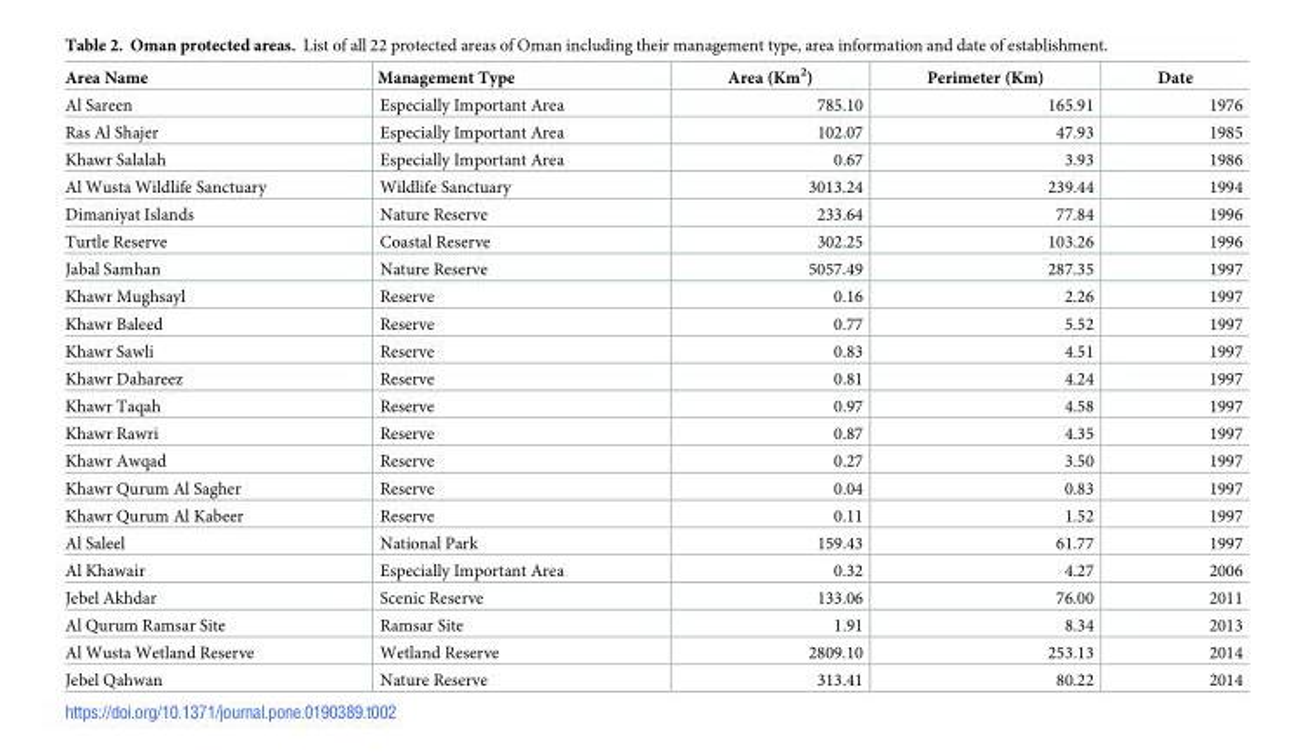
<table><thead><tr><td>Area Name</td><td>Management Type</td><td>Area (Km<sup>2</sup>)</td><td>Perimeter (Km)</td><td>Date</td></tr></thead><tbody><tr><td>Al Sareen</td><td>Especially Important Area</td><td>785.10</td><td>165.91</td><td>1976</td></tr><tr><td>Ras Al Shajer</td><td>Especially Important Area</td><td>102.07</td><td>47.93</td><td>1985</td></tr><tr><td>Khawr Salalah</td><td>Especially Important Area</td><td>0.67</td><td>3.93</td><td>1986</td></tr><tr><td>Al Wusta Wildlife Sanctuary</td><td>Wildlife Sanctuary</td><td>3013.24</td><td>239.44</td><td>1994</td></tr><tr><td>Dimaniyat Islands</td><td>Nature Reserve</td><td>233.64</td><td>77.84</td><td>1996</td></tr><tr><td>Turtle Reserve</td><td>Coastal Reserve</td><td>302.25</td><td>103.26</td><td>1996</td></tr><tr><td>Jabal Samhan</td><td>Nature Reserve</td><td>5057.49</td><td>287.35</td><td>1997</td></tr><tr><td>Khawr Mughsayl</td><td>Reserve</td><td>0.16</td><td>2.26</td><td>1997</td></tr><tr><td>Khawr Baleed</td><td>Reserve</td><td>0.77</td><td>5.52</td><td>1997</td></tr><tr><td>Khawr Sawli</td><td>Reserve</td><td>0.83</td><td>4.51</td><td>1997</td></tr><tr><td>Khawr Dahareez</td><td>Reserve</td><td>0.81</td><td>4.24</td><td>1997</td></tr><tr><td>Khawr Taqah</td><td>Reserve</td><td>0.97</td><td>4.58</td><td>1997</td></tr><tr><td>Khawr Rawri</td><td>Reserve</td><td>0.87</td><td>4.35</td><td>1997</td></tr><tr><td>Khawr Awqad</td><td>Reserve</td><td>0.27</td><td>3.50</td><td>1997</td></tr><tr><td>Khawr Qurum Al Sagher</td><td>Reserve</td><td>0.04</td><td>0.83</td><td>1997</td></tr><tr><td>Khawr Qurum Al Kabeer</td><td>Reserve</td><td>0.11</td><td>1.52</td><td>1997</td></tr><tr><td>Al Saleel</td><td>National Park</td><td>159.43</td><td>61.77</td><td>1997</td></tr><tr><td>Al Khawair</td><td>Especially Important Area</td><td>0.32</td><td>4.27</td><td>2006</td></tr><tr><td>Jebel Akhdar</td><td>Scenic Reserve</td><td>133.06</td><td>76.00</td><td>2011</td></tr><tr><td>Al Qurum Ramsar Site</td><td>Ramsar Site</td><td>1.91</td><td>8.34</td><td>2013</td></tr><tr><td>Al Wusta Wetland Reserve</td><td>Wetland Reserve</td><td>2809.10</td><td>253.13</td><td>2014</td></tr><tr><td>Jebel Qahwan</td><td>Nature Reserve</td><td>313.41</td><td>80.22</td><td>2014</td></tr></tbody></table>